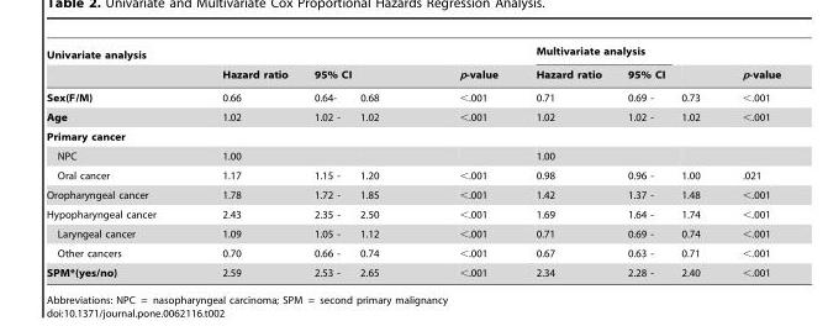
<table><thead><tr><td rowspan="2">Univariate analysis</td><td rowspan="2">Hazard ratio</td><td rowspan="2">95% CI</td><td rowspan="2"></td><td rowspan="2">p-value</td><td colspan="2">Multivariate analysis</td><td rowspan="2"></td><td rowspan="2">p-value</td></tr><tr><td>Hazard ratio</td><td>95% CI</td></tr></thead><tbody><tr><td>Sex(F/M)</td><td>0.66</td><td>0.64-</td><td>0.68</td><td>&lt;.001</td><td>0.71</td><td>0.69 -</td><td>0.73</td><td>&lt;.001</td></tr><tr><td>Age</td><td>1.02</td><td>1.02 -</td><td>1.02</td><td>&lt;.001</td><td>1.02</td><td>1.02 -</td><td>1.02</td><td>&lt;.001</td></tr><tr><td colspan="9">Primary cancer</td></tr><tr><td>NPC</td><td>1.00</td><td></td><td></td><td></td><td>1.00</td><td></td><td></td><td></td></tr><tr><td>Oral cancer</td><td>1.17</td><td>1.15 -</td><td>1.20</td><td>&lt;.001</td><td>0.98</td><td>0.96 -</td><td>1.00</td><td>.021</td></tr><tr><td>Oropharyngeal cancer</td><td>1.78</td><td>1.72 -</td><td>1.85</td><td>&lt;.001</td><td>1.42</td><td>1.37 -</td><td>1.48</td><td>&lt;.001</td></tr><tr><td>Hypopharyngeal cancer</td><td>2.43</td><td>2.35 -</td><td>2.50</td><td>&lt;.001</td><td>1.69</td><td>1.64 -</td><td>1.74</td><td>&lt;.001</td></tr><tr><td>Laryngeal cancer</td><td>1.09</td><td>1.05 -</td><td>1.12</td><td>&lt;.001</td><td>0.71</td><td>0.69 -</td><td>0.74</td><td>&lt;.001</td></tr><tr><td>Other cancers</td><td>0.70</td><td>0.66 -</td><td>0.74</td><td>&lt;.001</td><td>0.67</td><td>0.63 -</td><td>0.71</td><td>&lt;.001</td></tr><tr><td>SPM*(yes/no)</td><td>2.59</td><td>2.53 -</td><td>2.65</td><td>&lt;.001</td><td>2.34</td><td>2.28 -</td><td>2.40</td><td>&lt;.001</td></tr></tbody></table>